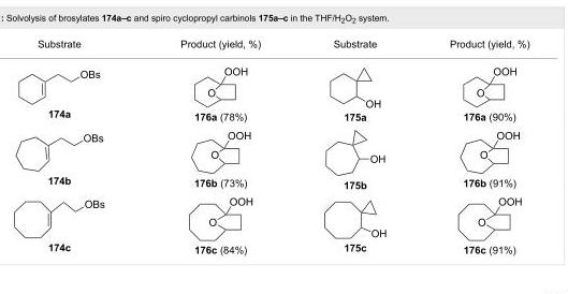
<table><tbody><tr><td>Substrate</td><td>Product (yield, %)</td><td>Substrate</td><td>Product (yield, %)</td></tr><tr><td>174a</td><td>176a (78%)</td><td>175a</td><td>176a (90%)</td></tr><tr><td>174b</td><td>176b (73%)</td><td>175b</td><td>176b (91%)</td></tr><tr><td>174c</td><td>176c (84%)</td><td>175c</td><td>176c (91%)</td></tr></tbody></table>